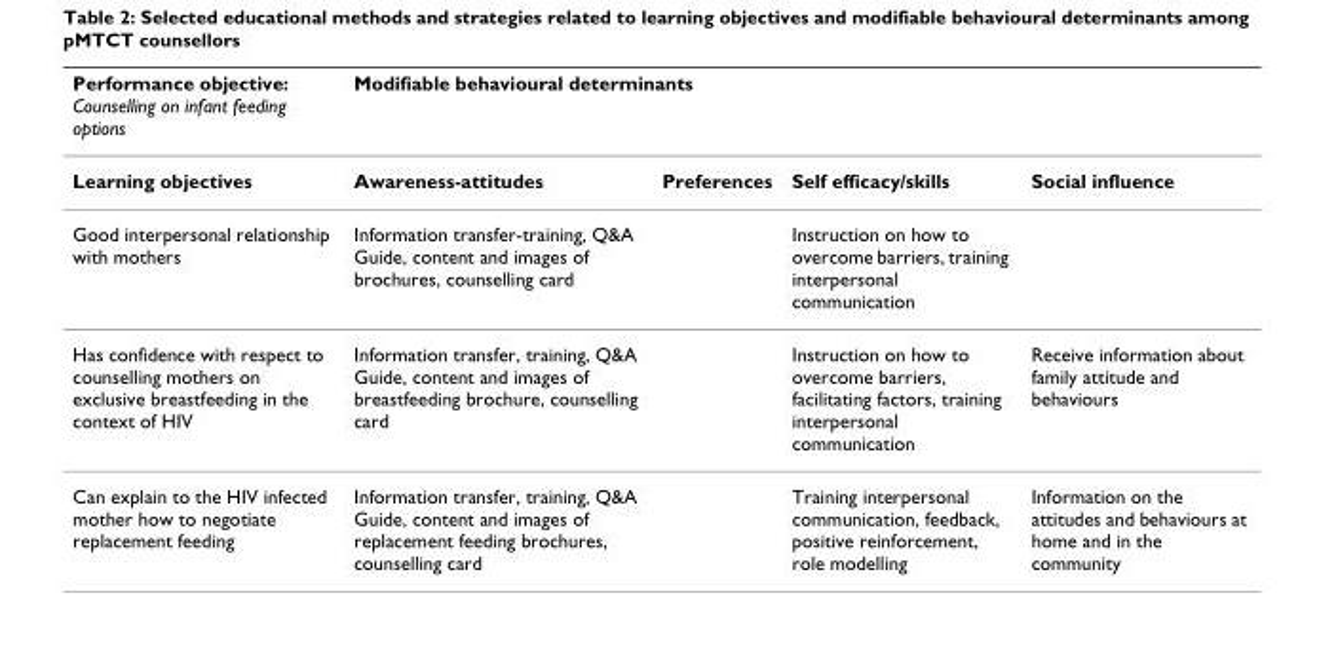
<table><thead><tr><td rowspan="2">Performance objective: Counselling on infant feeding options Learning objectives</td><td colspan="4">Modifiable behavioural determinants</td></tr><tr><td>Awareness-attitudes</td><td>Preferences</td><td>Self efficacy/skills</td><td>Social influence</td></tr></thead><tbody><tr><td>Good interpersonal relationship with mothers</td><td>Information transfer-training, Q&amp;A Guide, content and images of brochures, counselling card</td><td></td><td>Instruction on how to overcome barriers, training interpersonal communication</td><td></td></tr><tr><td>Has confidence with respect to counselling mothers on exclusive breastfeeding in the context of HIV</td><td>Information transfer, training, Q&amp;A Guide, content and images of breastfeeding brochure, counselling card</td><td></td><td>Instruction on how to overcome barriers, facilitating factors, training interpersonal communication</td><td>Receive information about family attitude and behaviours</td></tr><tr><td>Can explain to the HIV infected mother how to negotiate replacement feeding</td><td>Information transfer, training, Q&amp;A Guide, content and images of replacement feeding brochures, counselling card</td><td></td><td>Training interpersonal communication, feedback, positive reinforcement, role modelling</td><td>Information on the attitudes and behaviours at home and in the community</td></tr></tbody></table>